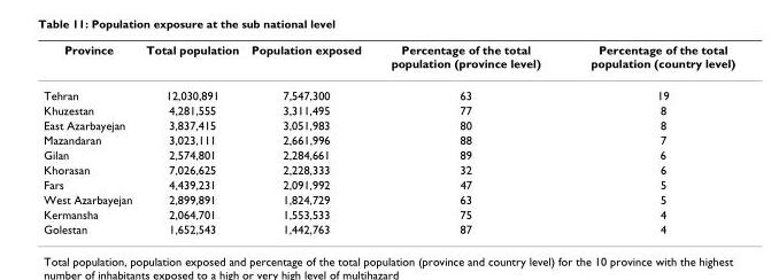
<table><thead><tr><td>Province</td><td>Total population</td><td>Population exposed</td><td>Percentage of the total population (province level)</td><td>Percentage of the total population (country level)</td></tr></thead><tbody><tr><td>Tehran</td><td>12,030,891</td><td>7,547,300</td><td>63</td><td>19</td></tr><tr><td>Khuzestan</td><td>4,281,555</td><td>3,311,495</td><td>77</td><td>8</td></tr><tr><td>East Azarbayejan</td><td>3,837,415</td><td>3,051,983</td><td>80</td><td>8</td></tr><tr><td>Mazandaran</td><td>3,023,111</td><td>2,661,996</td><td>88</td><td>7</td></tr><tr><td>Gilan</td><td>2,574,801</td><td>2,284,661</td><td>89</td><td>6</td></tr><tr><td>Khorasan</td><td>7,026,625</td><td>2,228,333</td><td>32</td><td>6</td></tr><tr><td>Fars</td><td>4,439,231</td><td>2,091,992</td><td>47</td><td>5</td></tr><tr><td>West Azarbayejan</td><td>2,899,891</td><td>1,824,729</td><td>63</td><td>5</td></tr><tr><td>Kermansha</td><td>2,064,701</td><td>1,553,533</td><td>75</td><td>4</td></tr><tr><td>Golestan</td><td>1,652,543</td><td>1,442,763</td><td>87</td><td>4</td></tr></tbody></table>